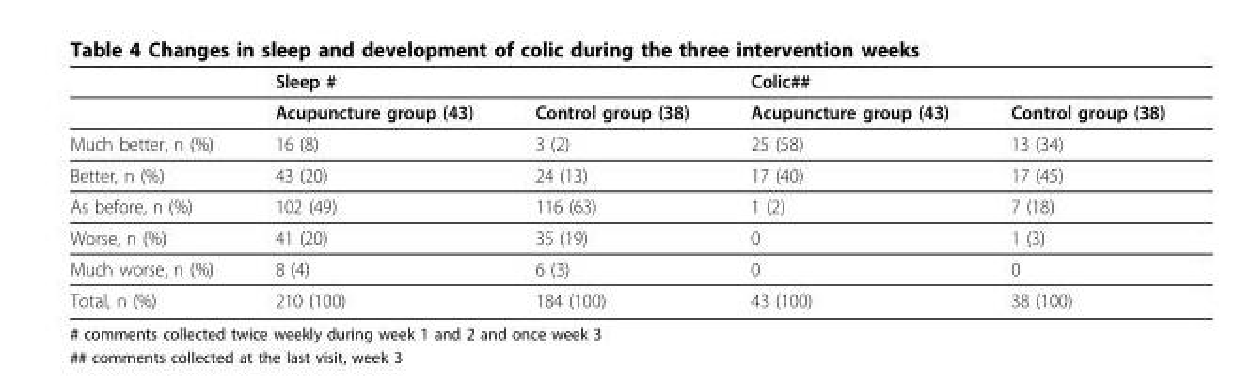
<table><thead><tr><td rowspan="2"></td><td colspan="2">Sleep #</td><td colspan="2">Colic##</td></tr><tr><td>Acupuncture group (43)</td><td>Control group (38)</td><td>Acupuncture group (43)</td><td>Control group (38)</td></tr></thead><tbody><tr><td>Much better, n (%)</td><td>16 (8)</td><td>3 (2)</td><td>25 (58)</td><td>13 (34)</td></tr><tr><td>Better, n (%)</td><td>43 (20)</td><td>24 (13)</td><td>17 (40)</td><td>17 (45)</td></tr><tr><td>As before, n (%)</td><td>102 (49)</td><td>116 (63)</td><td>1 (2)</td><td>7 (18)</td></tr><tr><td>Worse, n (%)</td><td>41 (20)</td><td>35 (19)</td><td>0</td><td>1 (3)</td></tr><tr><td>Much worse, n (%)</td><td>8 (4)</td><td>6 (3)</td><td>0</td><td>0</td></tr><tr><td>Total, n (%)</td><td>210 (100)</td><td>184 (100)</td><td>43 (100)</td><td>38 (100)</td></tr></tbody></table>